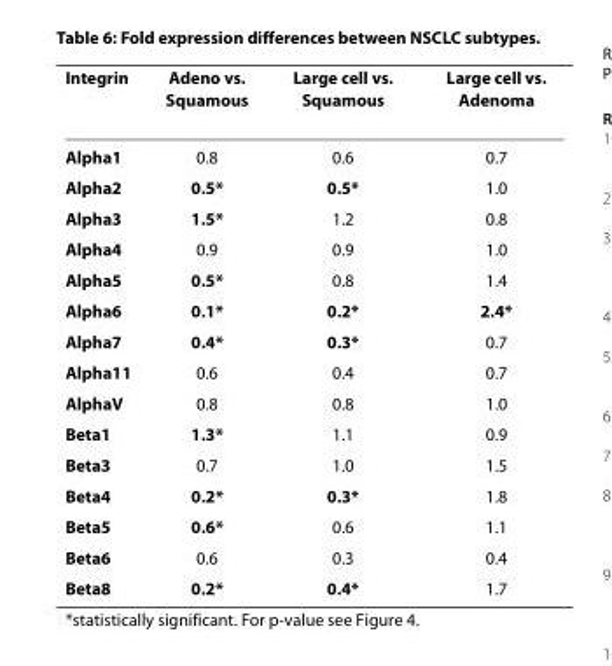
<table><thead><tr><td>Integrin</td><td>Adeno vs. Squamous</td><td>Large cell vs. Squamous</td><td>Large cell vs. Adenoma</td></tr></thead><tbody><tr><td>Alpha1</td><td>0.8</td><td>0.6</td><td>0.7</td></tr><tr><td>Alpha2</td><td>0.5*</td><td>0.5*</td><td>1.0</td></tr><tr><td>Alpha3</td><td>1.5*</td><td>1.2</td><td>0.8</td></tr><tr><td>Alpha4</td><td>0.9</td><td>0.9</td><td>1.0</td></tr><tr><td>Alpha5</td><td>0.5*</td><td>0.8</td><td>1.4</td></tr><tr><td>Alpha6</td><td>0.1*</td><td>0.2*</td><td>2.4*</td></tr><tr><td>Alpha7</td><td>0.4*</td><td>0.3*</td><td>0.7</td></tr><tr><td>Alpha11</td><td>0.6</td><td>0.4</td><td>0.7</td></tr><tr><td>AlphaV</td><td>0.8</td><td>0.8</td><td>1.0</td></tr><tr><td>Beta1</td><td>1.3*</td><td>1.1</td><td>0.9</td></tr><tr><td>Beta3</td><td>0.7</td><td>1.0</td><td>1.5</td></tr><tr><td>Beta4</td><td>0.2*</td><td>0.3*</td><td>1.8</td></tr><tr><td>Beta5</td><td>0.6*</td><td>0.6</td><td>1.1</td></tr><tr><td>Beta6</td><td>0.6</td><td>0.3</td><td>0.4</td></tr><tr><td>Beta8</td><td>0.2*</td><td>0.4*</td><td>1.7</td></tr></tbody></table>